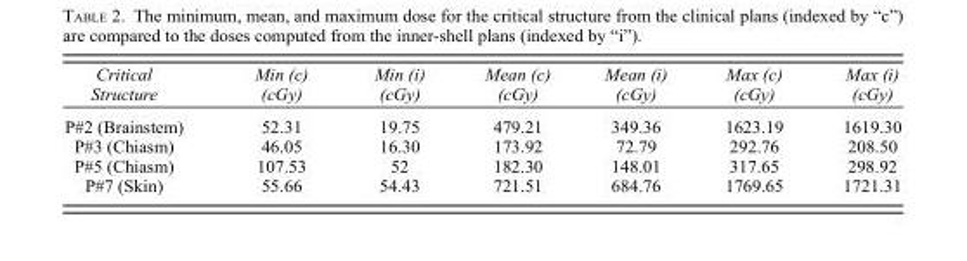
<table><thead><tr><td>Critical Structure</td><td>Min (c) (cGy)</td><td>Min (i) (cGy)</td><td>Mean (c) (cGy)</td><td>Mean (i) (cGy)</td><td>Max (c) (cGy)</td><td>Max (i) (cGy)</td></tr></thead><tbody><tr><td>P#2 (Brainstem)</td><td>52.31</td><td>19.75</td><td>479.21</td><td>349.36</td><td>1623.19</td><td>1619.30</td></tr><tr><td>P#3 (Chiasm)</td><td>46.05</td><td>16.30</td><td>173.92</td><td>72.79</td><td>292.76</td><td>208.50</td></tr><tr><td>P#5 (Chiasm)</td><td>107.53</td><td>52</td><td>182.30</td><td>148.01</td><td>317.65</td><td>298.92</td></tr><tr><td>P#7 (Skin)</td><td>55.66</td><td>54.43</td><td>721.51</td><td>684.76</td><td>1769.65</td><td>1721.31</td></tr></tbody></table>